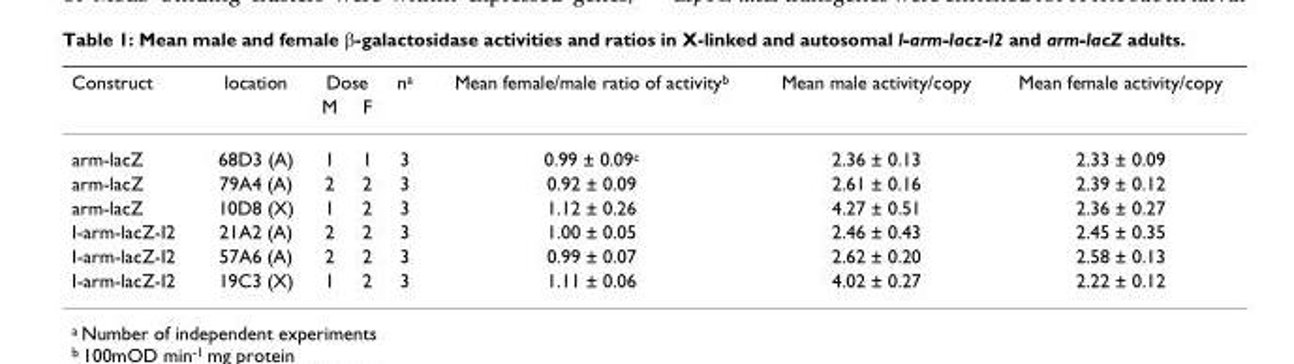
<table><thead><tr><td rowspan="2">Construct</td><td rowspan="2">location</td><td colspan="2">Dose</td><td rowspan="2">na</td><td rowspan="2">Mean female/male ratio of activityb</td><td rowspan="2">Mean male activity/copy</td><td rowspan="2">Mean female activity/copy</td></tr><tr><td>M</td><td>F</td></tr></thead><tbody><tr><td>arm-lacZ</td><td>68D3 (A)</td><td>1</td><td>1</td><td>3</td><td>0.99 ± 0.09c</td><td>2.36 ± 0.13</td><td>2.33 ± 0.09</td></tr><tr><td>arm-lacZ</td><td>79A4 (A)</td><td>2</td><td>2</td><td>3</td><td>0.92 ± 0.09</td><td>2.61 ± 0.16</td><td>2.39 ± 0.12</td></tr><tr><td>arm-lacZ</td><td>10D8 (X)</td><td>1</td><td>2</td><td>3</td><td>1.12 ± 0.26</td><td>4.27 ± 0.51</td><td>2.36 ± 0.27</td></tr><tr><td>I-arm-lacZ-I2</td><td>21A2 (A)</td><td>2</td><td>2</td><td>3</td><td>1.00 ± 0.05</td><td>2.46 ± 0.43</td><td>2.45 ± 0.35</td></tr><tr><td>I-arm-lacZ-I2</td><td>57A6 (A)</td><td>2</td><td>2</td><td>3</td><td>0.99 ± 0.07</td><td>2.62 ± 0.20</td><td>2.58 ± 0.13</td></tr><tr><td>I-arm-lacZ-I2</td><td>19C3 (X)</td><td>1</td><td>2</td><td>3</td><td>1.11 ± 0.06</td><td>4.02 ± 0.27</td><td>2.22 ± 0.12</td></tr></tbody></table>